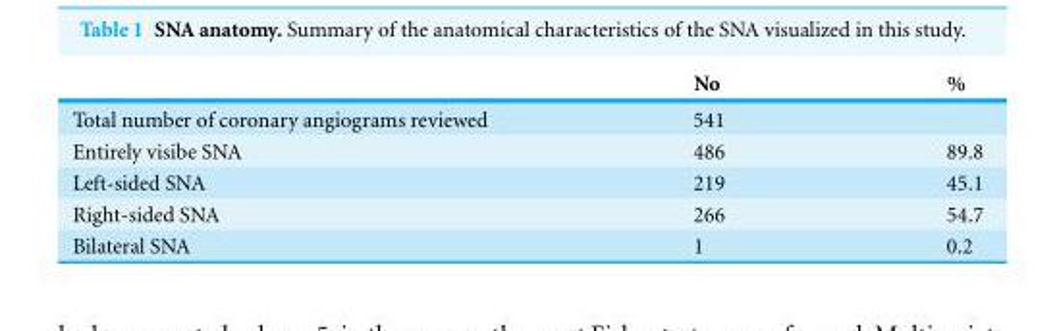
<table><thead><tr><td></td><td>No</td><td>%</td></tr></thead><tbody><tr><td>Total number of coronary angiograms reviewed</td><td>541</td><td></td></tr><tr><td>Entirely visibe SNA</td><td>486</td><td>89.8</td></tr><tr><td>Left-sided SNA</td><td>219</td><td>45.1</td></tr><tr><td>Right-sided SNA</td><td>266</td><td>54.7</td></tr><tr><td>Bilateral SNA</td><td>1</td><td>0.2</td></tr></tbody></table>